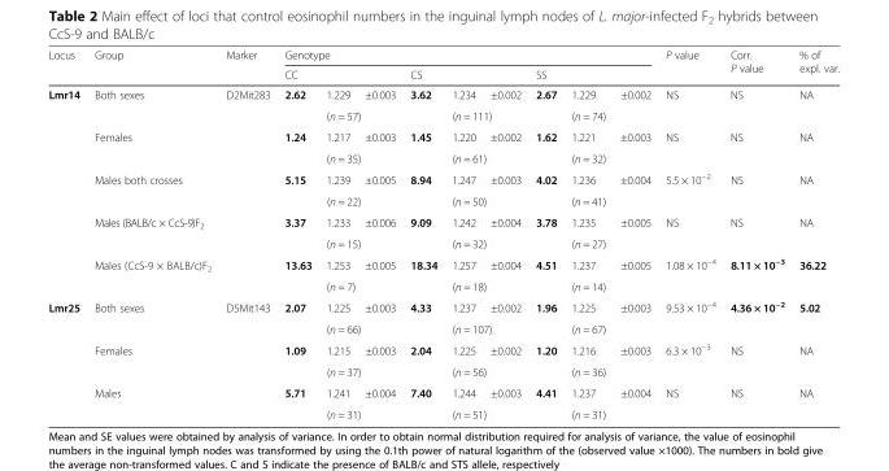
<table><thead><tr><td rowspan="3">Locus Lmr14</td><td rowspan="3">Group Both sexes</td><td rowspan="3">Marker D2Mit283</td><td colspan="9">Genotype</td><td rowspan="3">P value NS</td><td rowspan="3">Corr. P value NS</td><td rowspan="3">% of expl. var. NA</td></tr><tr><td colspan="3">CC</td><td colspan="3">CS</td><td colspan="3">SS</td></tr><tr><td>2.62</td><td>1.229</td><td>±0.003</td><td>3.62</td><td>1.234</td><td>±0.002</td><td>2.67</td><td>1.229</td><td>±0.002</td></tr></thead><tbody><tr><td rowspan="9"></td><td></td><td rowspan="9"></td><td></td><td colspan="2">(n = 57)</td><td></td><td colspan="2">(n = 111)</td><td></td><td colspan="2">(n = 74)</td><td></td><td></td><td></td></tr><tr><td>Females</td><td>1.24</td><td>1.217</td><td>±0.003</td><td>1.45</td><td>1.220</td><td>±0.002</td><td>1.62</td><td>1.221</td><td>±0.003</td><td>NS</td><td>NS</td><td>NA</td></tr><tr><td></td><td></td><td colspan="2">(n = 35)</td><td></td><td colspan="2">(n = 61)</td><td></td><td colspan="2">(n = 32)</td><td></td><td></td><td></td></tr><tr><td>Males both crosses</td><td>5.15</td><td>1.239</td><td>±0.005</td><td>8.94</td><td>1.247</td><td>±0.003</td><td>4.02</td><td>1.236</td><td>±0.004</td><td>5.5 × 10<sup>−2</sup></td><td>NS</td><td>NA</td></tr><tr><td></td><td></td><td colspan="2">(n = 22)</td><td></td><td colspan="2">(n = 50)</td><td></td><td colspan="2">(n = 41)</td><td></td><td></td><td></td></tr><tr><td>Males (BALB/c × CcS-9)F<sub>2</sub></td><td>3.37</td><td>1.233</td><td>±0.006</td><td>9.09</td><td>1.242</td><td>±0.004</td><td>3.78</td><td>1.235</td><td>±0.005</td><td>NS</td><td>NS</td><td>NA</td></tr><tr><td></td><td></td><td colspan="2">(n = 15)</td><td></td><td colspan="2">(n = 32)</td><td></td><td>(n = 27)</td><td></td><td></td><td></td><td></td></tr><tr><td>Males (CcS-9 × BALB/c)F<sub>2</sub></td><td>13.63</td><td>1.253</td><td>±0.005</td><td>18.34</td><td>1.257</td><td>±0.004</td><td>4.51</td><td>1.237</td><td>±0.005</td><td>1.08 × 10<sup>−4</sup></td><td>8.11 × 10<sup>−3</sup></td><td>36.22</td></tr><tr><td></td><td></td><td colspan="2">(n = 7)</td><td></td><td colspan="2">(n = 18)</td><td></td><td colspan="2">(n = 14)</td><td></td><td></td><td></td></tr><tr><td rowspan="6">Lmr25</td><td>Both sexes</td><td>D5Mit143</td><td>2.07</td><td>1.225</td><td>±0.003</td><td>4.33</td><td>1.237</td><td>±0.002</td><td>1.96</td><td>1.225</td><td>±0.003</td><td>9.53 × 10<sup>−4</sup></td><td>4.36 × 10<sup>−2</sup></td><td>5.02</td></tr><tr><td></td><td rowspan="5"></td><td></td><td colspan="2">(n = 66)</td><td></td><td colspan="2">(n = 107)</td><td></td><td colspan="2">(n = 67)</td><td></td><td></td><td></td></tr><tr><td>Females</td><td>1.09</td><td>1.215</td><td>±0.003</td><td>2.04</td><td>1.225</td><td>±0.002</td><td>1.20</td><td>1.216</td><td>±0.003</td><td>6.3 × 10<sup>−3</sup></td><td>NS</td><td>NA</td></tr><tr><td></td><td></td><td colspan="2">(n = 37)</td><td></td><td colspan="2">(n = 56)</td><td></td><td colspan="2">(n = 36)</td><td></td><td></td><td></td></tr><tr><td>Males</td><td>5.71</td><td>1.241</td><td>±0.004</td><td>7.40</td><td>1.244</td><td>±0.003</td><td>4.41</td><td>1.237</td><td>±0.004</td><td>NS</td><td>NS</td><td>NA</td></tr><tr><td></td><td></td><td colspan="2">(n = 31)</td><td></td><td colspan="2">(n = 51)</td><td></td><td colspan="2">(n = 31)</td><td></td><td></td><td></td></tr></tbody></table>